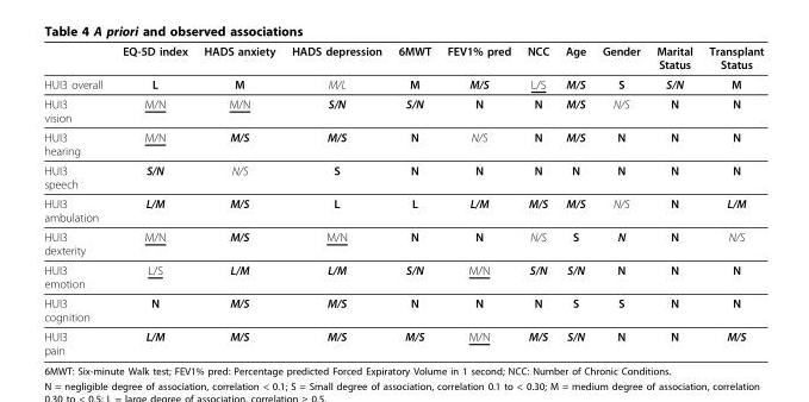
<table><thead><tr><td></td><td>EQ-5D index</td><td>HADS anxiety</td><td>HADS depression</td><td>6MWT</td><td>FEV1% pred</td><td>NCC</td><td>Age</td><td>Gender</td><td>Marital Status</td><td>Transplant Status</td></tr></thead><tbody><tr><td>HUI3 overall</td><td>L</td><td>M</td><td>M/L</td><td>M</td><td>M/S</td><td>L/S</td><td>M/S</td><td>S</td><td>S/N</td><td>M</td></tr><tr><td>HUI3 vision</td><td>M/N</td><td>M/N</td><td>S/N</td><td>S/N</td><td>N</td><td>N</td><td>M/S</td><td>N/S</td><td>N</td><td>N</td></tr><tr><td>HUI3 hearing</td><td>M/N</td><td>M/S</td><td>M/S</td><td>N</td><td>N/S</td><td>N</td><td>M/S</td><td>N</td><td>N</td><td>N</td></tr><tr><td>HUI3 speech</td><td>S/N</td><td>N/S</td><td>S</td><td>N</td><td>N</td><td>N</td><td>N</td><td>N</td><td>N</td><td>N</td></tr><tr><td>HUI3 ambulation</td><td>L/M</td><td>M/S</td><td>L</td><td>L</td><td>L/M</td><td>M/S</td><td>M/S</td><td>N/S</td><td>N</td><td>L/M</td></tr><tr><td>HUI3 dexterity</td><td>M/N</td><td>M/S</td><td>M/N</td><td>N</td><td>N</td><td>N/S</td><td>S</td><td>N</td><td>N</td><td>N/S</td></tr><tr><td>HUI3 emotion</td><td>L/S</td><td>L/M</td><td>L/M</td><td>S/N</td><td>M/N</td><td>S/N</td><td>S/N</td><td>N</td><td>N</td><td>N</td></tr><tr><td>HUI3 cognition</td><td>N</td><td>M/S</td><td>M/S</td><td>N</td><td>N</td><td>N</td><td>S</td><td>S</td><td>N</td><td>N</td></tr><tr><td>HUI3 pain</td><td>L/M</td><td>M/S</td><td>M/S</td><td>M/S</td><td>M/N</td><td>M/S</td><td>S/N</td><td>N</td><td>N</td><td>M/S</td></tr></tbody></table>